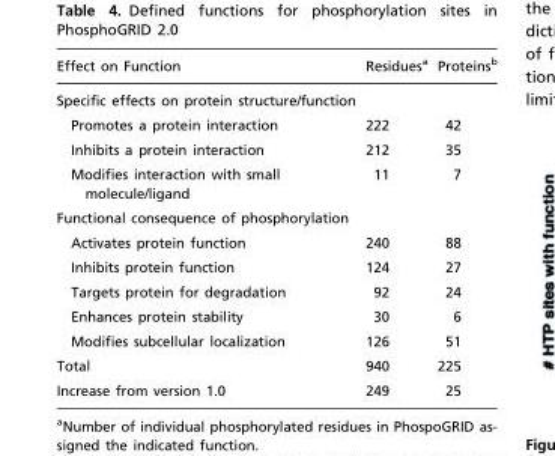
<table><thead><tr><td>Effect on Function</td><td>Residues<sup>a</sup></td><td>Proteins<sup>b</sup></td></tr></thead><tbody><tr><td colspan="3">Specific effects on protein structure/function</td></tr><tr><td>Promotes a protein interaction</td><td>222</td><td>42</td></tr><tr><td>Inhibits a protein interaction</td><td>212</td><td>35</td></tr><tr><td>Modifies interaction with small molecule/ligand</td><td>11</td><td>7</td></tr><tr><td colspan="3">Functional consequence of phosphorylation</td></tr><tr><td>Activates protein function</td><td>240</td><td>88</td></tr><tr><td>Inhibits protein function</td><td>124</td><td>27</td></tr><tr><td>Targets protein for degradation</td><td>92</td><td>24</td></tr><tr><td>Enhances protein stability</td><td>30</td><td>6</td></tr><tr><td>Modifies subcellular localization</td><td>126</td><td>51</td></tr><tr><td>Total</td><td>940</td><td>225</td></tr><tr><td>Increase from version 1.0</td><td>249</td><td>25</td></tr></tbody></table>